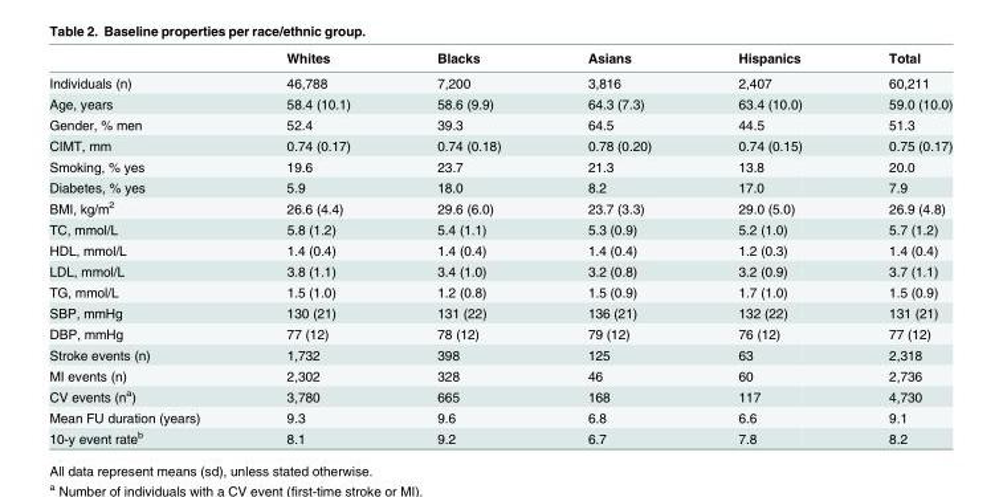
<table><thead><tr><td></td><td>Whites</td><td>Blacks</td><td>Asians</td><td>Hispanics</td><td>Total</td></tr></thead><tbody><tr><td>Individuals (n)</td><td>46,788</td><td>7,200</td><td>3,816</td><td>2,407</td><td>60,211</td></tr><tr><td>Age, years</td><td>58.4 (10.1)</td><td>58.6 (9.9)</td><td>64.3 (7.3)</td><td>63.4 (10.0)</td><td>59.0 (10.0)</td></tr><tr><td>Gender, % men</td><td>52.4</td><td>39.3</td><td>64.5</td><td>44.5</td><td>51.3</td></tr><tr><td>CIMT, mm</td><td>0.74 (0.17)</td><td>0.74 (0.18)</td><td>0.78 (0.20)</td><td>0.74 (0.15)</td><td>0.75 (0.17)</td></tr><tr><td>Smoking, % yes</td><td>19.6</td><td>23.7</td><td>21.3</td><td>13.8</td><td>20.0</td></tr><tr><td>Diabetes, % yes</td><td>5.9</td><td>18.0</td><td>8.2</td><td>17.0</td><td>7.9</td></tr><tr><td>BMI, kg/m<sup>2</sup></td><td>26.6 (4.4)</td><td>29.6 (6.0)</td><td>23.7 (3.3)</td><td>29.0 (5.0)</td><td>26.9 (4.8)</td></tr><tr><td>TC, mmol/L</td><td>5.8 (1.2)</td><td>5.4 (1.1)</td><td>5.3 (0.9)</td><td>5.2 (1.0)</td><td>5.7 (1.2)</td></tr><tr><td>HDL, mmol/L</td><td>1.4 (0.4)</td><td>1.4 (0.4)</td><td>1.4 (0.4)</td><td>1.2 (0.3)</td><td>1.4 (0.4)</td></tr><tr><td>LDL, mmol/L</td><td>3.8 (1.1)</td><td>3.4 (1.0)</td><td>3.2 (0.8)</td><td>3.2 (0.9)</td><td>3.7 (1.1)</td></tr><tr><td>TG, mmol/L</td><td>1.5 (1.0)</td><td>1.2 (0.8)</td><td>1.5 (0.9)</td><td>1.7 (1.0)</td><td>1.5 (0.9)</td></tr><tr><td>SBP, mmHg</td><td>130 (21)</td><td>131 (22)</td><td>136 (21)</td><td>132 (22)</td><td>131 (21)</td></tr><tr><td>DBP, mmHg</td><td>77 (12)</td><td>78 (12)</td><td>79 (12)</td><td>76 (12)</td><td>77 (12)</td></tr><tr><td>Stroke events (n)</td><td>1,732</td><td>398</td><td>125</td><td>63</td><td>2,318</td></tr><tr><td>MI events (n)</td><td>2,302</td><td>328</td><td>46</td><td>60</td><td>2,736</td></tr><tr><td>CV events (n<sup>a</sup>)</td><td>3,780</td><td>665</td><td>168</td><td>117</td><td>4,730</td></tr><tr><td>Mean FU duration (years)</td><td>9.3</td><td>9.6</td><td>6.8</td><td>6.6</td><td>9.1</td></tr><tr><td>10-y event rate<sup>b</sup></td><td>8.1</td><td>9.2</td><td>6.7</td><td>7.8</td><td>8.2</td></tr></tbody></table>